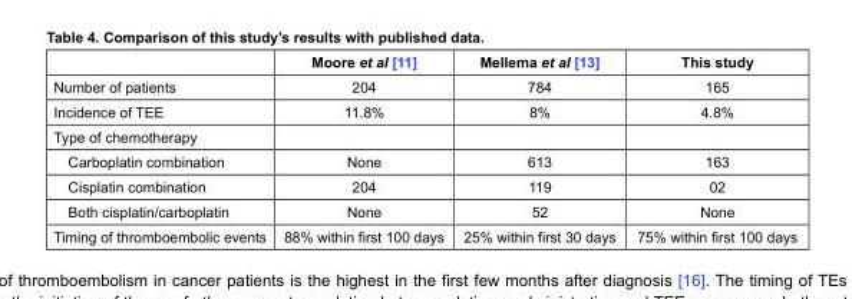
<table><thead><tr><td></td><td>Moore et al [11]</td><td>Mellema et al [13]</td><td>This study</td></tr></thead><tbody><tr><td>Number of patients</td><td>204</td><td>784</td><td>165</td></tr><tr><td>Incidence of TEE</td><td>11.8%</td><td>8%</td><td>4.8%</td></tr><tr><td colspan="4">Type of chemotherapy</td></tr><tr><td>Carboplatin combination</td><td>None</td><td>613</td><td>163</td></tr><tr><td>Cisplatin combination</td><td>204</td><td>119</td><td>02</td></tr><tr><td>Both cisplatin/carboplatin</td><td>None</td><td>52</td><td>None</td></tr><tr><td>Timing of thromboembolic events</td><td>88% within first 100 days</td><td>25% within first 30 days</td><td>75% within first 100 days</td></tr></tbody></table>